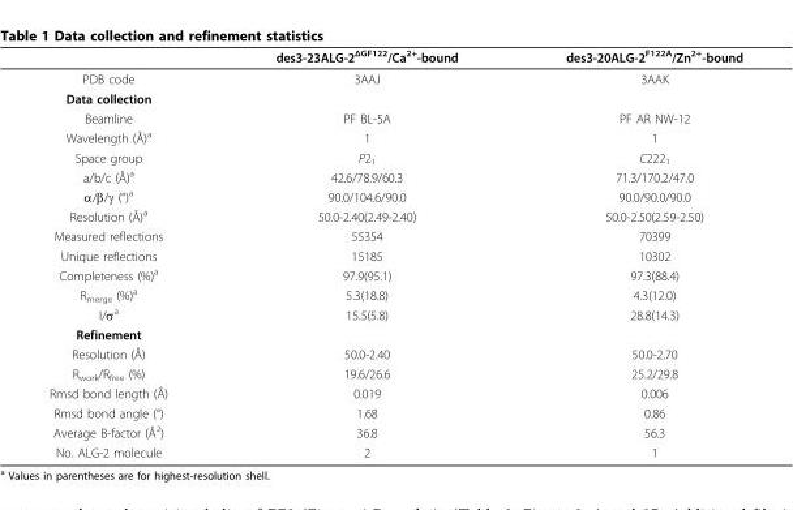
<table><thead><tr><td></td><td>des3-23ALG-2<sup>ΔGF122</sup>/Ca<sup>2+</sup>-bound</td><td>des3-20ALG-2<sup>F122A</sup>/Zn<sup>2+</sup>-bound</td></tr></thead><tbody><tr><td>PDB code</td><td>3AAJ</td><td>3AAK</td></tr><tr><td colspan="3">Data collection</td></tr><tr><td>Beamline</td><td>PF BL-5A</td><td>PF AR NW-12</td></tr><tr><td>Wavelength (Å)<sup>a</sup></td><td>1</td><td>1</td></tr><tr><td>Space group</td><td>P2<sub>1</sub></td><td>C222<sub>1</sub></td></tr><tr><td>a/b/c (Å)<sup>a</sup></td><td>42.6/78.9/60.3</td><td>71.3/170.2/47.0</td></tr><tr><td>α/β/γ (°)<sup>a</sup></td><td>90.0/104.6/90.0</td><td>90.0/90.0/90.0</td></tr><tr><td>Resolution (Å)<sup>a</sup></td><td>50.0-2.40(2.49-2.40)</td><td>50.0-2.50(2.59-2.50)</td></tr><tr><td>Measured reflections</td><td>55354</td><td>70399</td></tr><tr><td>Unique reflections</td><td>15185</td><td>10302</td></tr><tr><td>Completeness (%)<sup>a</sup></td><td>97.9(95.1)</td><td>97.3(88.4)</td></tr><tr><td>R<sub>merge</sub> (%)<sup>a</sup></td><td>5.3(18.8)</td><td>4.3(12.0)</td></tr><tr><td>I/σ<sup>a</sup></td><td>15.5(5.8)</td><td>28.8(14.3)</td></tr><tr><td colspan="3">Refinement</td></tr><tr><td>Resolution (Å)</td><td>50.0-2.40</td><td>50.0-2.70</td></tr><tr><td>R<sub>work</sub>/R<sub>free</sub> (%)</td><td>19.6/26.6</td><td>25.2/29.8</td></tr><tr><td>Rmsd bond length (Å)</td><td>0.019</td><td>0.006</td></tr><tr><td>Rmsd bond angle (°)</td><td>1.68</td><td>0.86</td></tr><tr><td>Average B-factor (Å<sup>2</sup>)</td><td>36.8</td><td>56.3</td></tr><tr><td>No. ALG-2 molecule</td><td>2</td><td>1</td></tr></tbody></table>